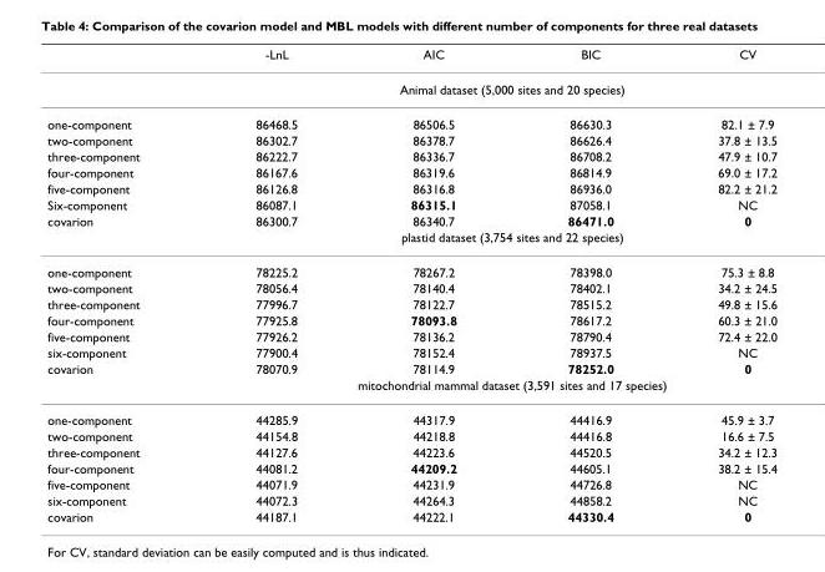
<table><thead><tr><td></td><td>-LnL</td><td>AIC</td><td>BIC</td><td>CV</td></tr></thead><tbody><tr><td></td><td colspan="4">Animal dataset (5,000 sites and 20 species)</td></tr><tr><td>one-component</td><td>86468.5</td><td>86506.5</td><td>86630.3</td><td>82.1 ± 7.9</td></tr><tr><td>two-component</td><td>86302.7</td><td>86378.7</td><td>86626.4</td><td>37.8 ± 13.5</td></tr><tr><td>three-component</td><td>86222.7</td><td>86336.7</td><td>86708.2</td><td>47.9 ± 10.7</td></tr><tr><td>four-component</td><td>86167.6</td><td>86319.6</td><td>86814.9</td><td>69.0 ± 17.2</td></tr><tr><td>five-component</td><td>86126.8</td><td>86316.8</td><td>86936.0</td><td>82.2 ± 21.2</td></tr><tr><td>Six-component</td><td>86087.1</td><td>86315.1</td><td>87058.1</td><td>NC</td></tr><tr><td rowspan="2">covarion</td><td>86300.7</td><td>86340.7</td><td>86471.0</td><td>0</td></tr><tr><td colspan="4">plastid dataset (3,754 sites and 22 species)</td></tr><tr><td>one-component</td><td>78225.2</td><td>78267.2</td><td>78398.0</td><td>75.3 ± 8.8</td></tr><tr><td>two-component</td><td>78056.4</td><td>78140.4</td><td>78402.1</td><td>34.2 ± 24.5</td></tr><tr><td>three-component</td><td>77996.7</td><td>78122.7</td><td>78515.2</td><td>49.8 ± 15.6</td></tr><tr><td>four-component</td><td>77925.8</td><td>78093.8</td><td>78617.2</td><td>60.3 ± 21.0</td></tr><tr><td>five-component</td><td>77926.2</td><td>78136.2</td><td>78790.4</td><td>72.4 ± 22.0</td></tr><tr><td>six-component</td><td>77900.4</td><td>78152.4</td><td>78937.5</td><td>NC</td></tr><tr><td rowspan="2">covarion</td><td>78070.9</td><td>78114.9</td><td>78252.0</td><td>0</td></tr><tr><td colspan="4">mitochondrial mammal dataset (3,591 sites and 17 species)</td></tr><tr><td>one-component</td><td>44285.9</td><td>44317.9</td><td>44416.9</td><td>45.9 ± 3.7</td></tr><tr><td>two-component</td><td>44154.8</td><td>44218.8</td><td>44416.8</td><td>16.6 ± 7.5</td></tr><tr><td>three-component</td><td>44127.6</td><td>44223.6</td><td>44520.5</td><td>34.2 ± 12.3</td></tr><tr><td>four-component</td><td>44081.2</td><td>44209.2</td><td>44605.1</td><td>38.2 ± 15.4</td></tr><tr><td>five-component</td><td>44071.9</td><td>44231.9</td><td>44726.8</td><td>NC</td></tr><tr><td>six-component</td><td>44072.3</td><td>44264.3</td><td>44858.2</td><td>NC</td></tr><tr><td>covarion</td><td>44187.1</td><td>44222.1</td><td>44330.4</td><td>0</td></tr></tbody></table>